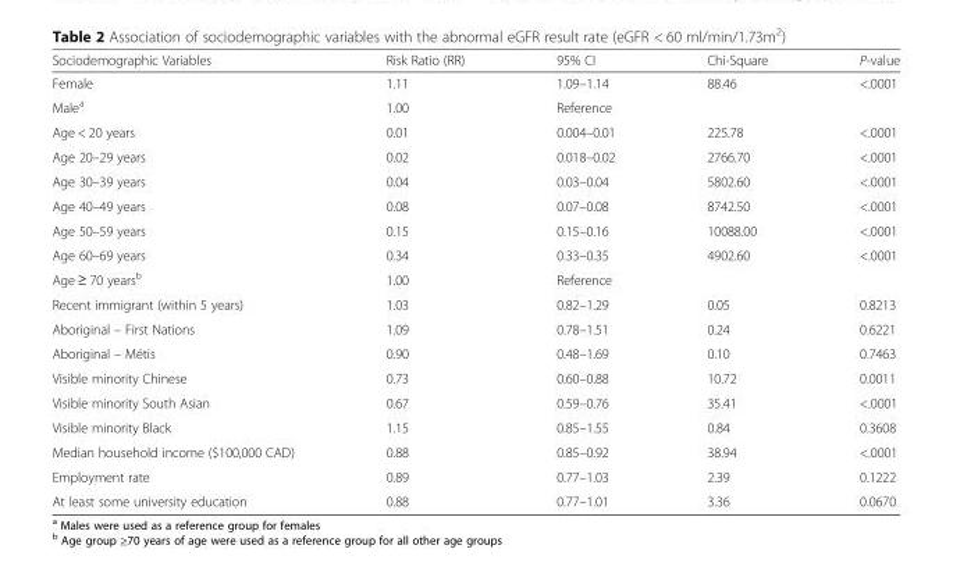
<table><thead><tr><td>Sociodemographic Variables</td><td>Risk Ratio (RR)</td><td>95% CI</td><td>Chi-Square</td><td>P-value</td></tr></thead><tbody><tr><td>Female</td><td>1.11</td><td>1.09–1.14</td><td>88.46</td><td>&lt;.0001</td></tr><tr><td>Male<sup>a</sup></td><td>1.00</td><td colspan="3">Reference</td></tr><tr><td>Age &lt; 20 years</td><td>0.01</td><td>0.004–0.01</td><td>225.78</td><td>&lt;.0001</td></tr><tr><td>Age 20–29 years</td><td>0.02</td><td>0.018–0.02</td><td>2766.70</td><td>&lt;.0001</td></tr><tr><td>Age 30–39 years</td><td>0.04</td><td>0.03–0.04</td><td>5802.60</td><td>&lt;.0001</td></tr><tr><td>Age 40–49 years</td><td>0.08</td><td>0.07–0.08</td><td>8742.50</td><td>&lt;.0001</td></tr><tr><td>Age 50–59 years</td><td>0.15</td><td>0.15–0.16</td><td>10088.00</td><td>&lt;.0001</td></tr><tr><td>Age 60–69 years</td><td>0.34</td><td>0.33–0.35</td><td>4902.60</td><td>&lt;.0001</td></tr><tr><td>Age ≥ 70 years<sup>b</sup></td><td>1.00</td><td colspan="3">Reference</td></tr><tr><td>Recent immigrant (within 5 years)</td><td>1.03</td><td>0.82–1.29</td><td>0.05</td><td>0.8213</td></tr><tr><td>Aboriginal – First Nations</td><td>1.09</td><td>0.78–1.51</td><td>0.24</td><td>0.6221</td></tr><tr><td>Aboriginal – Métis</td><td>0.90</td><td>0.48–1.69</td><td>0.10</td><td>0.7463</td></tr><tr><td>Visible minority Chinese</td><td>0.73</td><td>0.60–0.88</td><td>10.72</td><td>0.0011</td></tr><tr><td>Visible minority South Asian</td><td>0.67</td><td>0.59–0.76</td><td>35.41</td><td>&lt;.0001</td></tr><tr><td>Visible minority Black</td><td>1.15</td><td>0.85–1.55</td><td>0.84</td><td>0.3608</td></tr><tr><td>Median household income ($100,000 CAD)</td><td>0.88</td><td>0.85–0.92</td><td>38.94</td><td>&lt;.0001</td></tr><tr><td>Employment rate</td><td>0.89</td><td>0.77–1.03</td><td>2.39</td><td>0.1222</td></tr><tr><td>At least some university education</td><td>0.88</td><td>0.77–1.01</td><td>3.36</td><td>0.0670</td></tr></tbody></table>